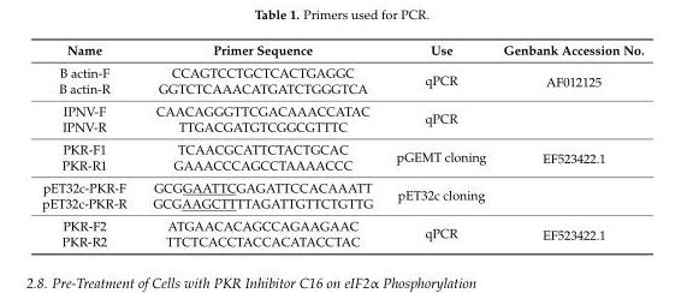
<table><thead><tr><td>Name</td><td>Primer Sequence</td><td>Use</td><td>Genbank Accession No.</td></tr></thead><tbody><tr><td>B actin-F</td><td>CCAGTCCTGCTCACTGAGGC</td><td rowspan="2">qPCR</td><td rowspan="2">AF012125</td></tr><tr><td>B actin-R</td><td>GGTCTCAAACATGATCTGGGTCA</td></tr><tr><td>IPNV-F</td><td>CAACAGGGTTCGACAAACCATAC</td><td rowspan="2">qPCR</td><td rowspan="2"></td></tr><tr><td>IPNV-R</td><td>TTGACGATGTCGGCGTTTC</td></tr><tr><td>PKR-F1</td><td>TCAACGCATTCTACTGCAC</td><td rowspan="2">pGEMT cloning</td><td rowspan="2">EF523422.1</td></tr><tr><td>PKR-R1</td><td>GAAACCCAGCCTAAAACCC</td></tr><tr><td>pET32c-PKR-F</td><td>GCGGAATTCGAGATTCCACAAATT</td><td rowspan="2">pET32c cloning</td><td rowspan="2"></td></tr><tr><td>pET32c-PKR-R</td><td>GCGAAGCTTTTAGATTGTTCTGTTG</td></tr><tr><td>PKR-F2</td><td>ATGAACACAGCCAGAAGAAC</td><td rowspan="2">qPCR</td><td rowspan="2">EF523422.1</td></tr><tr><td>PKR-R2</td><td>TTCTCACCTACCACATACCTAC</td></tr></tbody></table>